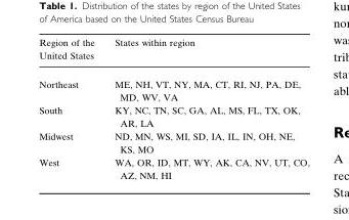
<table><thead><tr><td>Region of the United States</td><td>States within region</td></tr></thead><tbody><tr><td>Northeast</td><td>ME, NH, VT, NY, MA, CT, RI, NJ, PA, DE, MD, WV, VA</td></tr><tr><td>South</td><td>KY, NC, TN, SC, GA, AL, MS, FL, TX, OK, AR, LA</td></tr><tr><td>Midwest</td><td>ND, MN, WS, MI, SD, IA, IL, IN, OH, NE, KS, MO</td></tr><tr><td>West</td><td>WA, OR, ID, MT, WY, AK, CA, NV, UT, CO, AZ, NM, HI</td></tr></tbody></table>